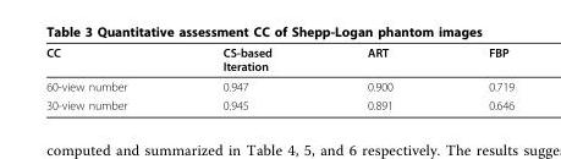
<table><thead><tr><td>CC</td><td>CS-based Iteration</td><td>ART</td><td>FBP</td></tr></thead><tbody><tr><td>60-view number</td><td>0.947</td><td>0.900</td><td>0.719</td></tr><tr><td>30-view number</td><td>0.945</td><td>0.891</td><td>0.646</td></tr></tbody></table>